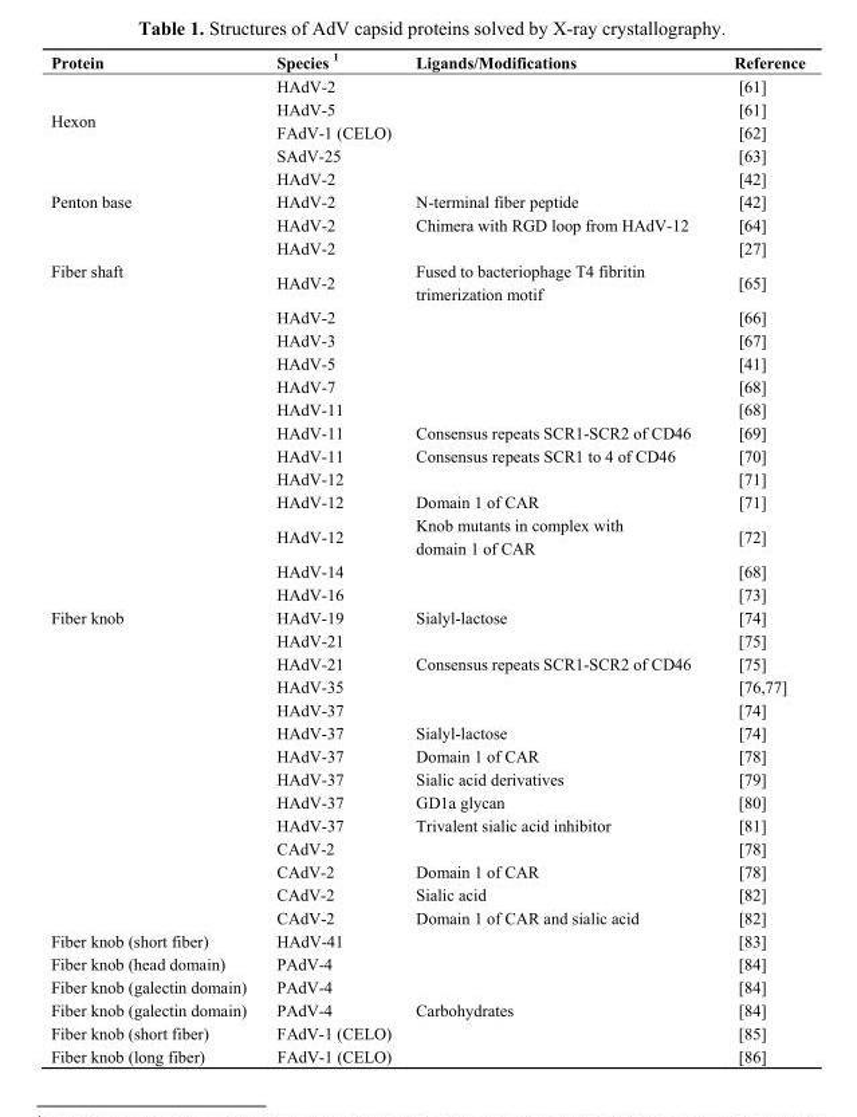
<table><thead><tr><td>Protein</td><td>Species 1</td><td>Ligands/Modifications</td><td>Reference</td></tr></thead><tbody><tr><td rowspan="4">Hexon</td><td>HAdV-2</td><td></td><td>[61]</td></tr><tr><td>HAdV-5</td><td></td><td>[61]</td></tr><tr><td>FAdV-1 (CELO)</td><td></td><td>[62]</td></tr><tr><td>SAdV-25</td><td></td><td>[63]</td></tr><tr><td rowspan="3">Penton base</td><td>HAdV-2</td><td></td><td>[42]</td></tr><tr><td>HAdV-2</td><td>N-terminal fiber peptide</td><td>[42]</td></tr><tr><td>HAdV-2</td><td>Chimera with RGD loop from HAdV-12</td><td>[64]</td></tr><tr><td rowspan="2">Fiber shaft</td><td>HAdV-2</td><td></td><td>[27]</td></tr><tr><td>HAdV-2</td><td>Fused to bacteriophage T4 fibritin trimerization motif</td><td>[65]</td></tr><tr><td rowspan="26">Fiber knob</td><td>HAdV-2</td><td></td><td>[66]</td></tr><tr><td>HAdV-3</td><td></td><td>[67]</td></tr><tr><td>HAdV-5</td><td></td><td>[41]</td></tr><tr><td>HAdV-7</td><td></td><td>[68]</td></tr><tr><td>HAdV-11</td><td></td><td>[68]</td></tr><tr><td>HAdV-11</td><td>Consensus repeats SCR1-SCR2 of CD46</td><td>[69]</td></tr><tr><td>HAdV-11</td><td>Consensus repeats SCR1 to 4 of CD46</td><td>[70]</td></tr><tr><td>HAdV-12</td><td></td><td>[71]</td></tr><tr><td>HAdV-12</td><td>Domain 1 of CAR</td><td>[71]</td></tr><tr><td>HAdV-12</td><td>Knob mutants in complex with domain 1 of CAR</td><td>[72]</td></tr><tr><td>HAdV-14</td><td></td><td>[68]</td></tr><tr><td>HAdV-16</td><td></td><td>[73]</td></tr><tr><td>HAdV-19</td><td>Sialyl-lactose</td><td>[74]</td></tr><tr><td>HAdV-21</td><td></td><td>[75]</td></tr><tr><td>HAdV-21</td><td>Consensus repeats SCR1-SCR2 of CD46</td><td>[75]</td></tr><tr><td>HAdV-35</td><td></td><td>[76,77]</td></tr><tr><td>HAdV-37</td><td></td><td>[74]</td></tr><tr><td>HAdV-37</td><td>Sialyl-lactose</td><td>[74]</td></tr><tr><td>HAdV-37</td><td>Domain 1 of CAR</td><td>[78]</td></tr><tr><td>HAdV-37</td><td>Sialic acid derivatives</td><td>[79]</td></tr><tr><td>HAdV-37</td><td>GD1a glycan</td><td>[80]</td></tr><tr><td>HAdV-37</td><td>Trivalent sialic acid inhibitor</td><td>[81]</td></tr><tr><td>CAdV-2</td><td></td><td>[78]</td></tr><tr><td>CAdV-2</td><td>Domain 1 of CAR</td><td>[78]</td></tr><tr><td>CAdV-2</td><td>Sialic acid</td><td>[82]</td></tr><tr><td>CAdV-2</td><td>Domain 1 of CAR and sialic acid</td><td>[82]</td></tr><tr><td>Fiber knob (short fiber)</td><td>HAdV-41</td><td></td><td>[83]</td></tr><tr><td>Fiber knob (head domain)</td><td>PAdV-4</td><td></td><td>[84]</td></tr><tr><td>Fiber knob (galectin domain)</td><td>PAdV-4</td><td></td><td>[84]</td></tr><tr><td>Fiber knob (galectin domain)</td><td>PAdV-4</td><td>Carbohydrates</td><td>[84]</td></tr><tr><td>Fiber knob (short fiber)</td><td>FAdV-1 (CELO)</td><td></td><td>[85]</td></tr><tr><td>Fiber knob (long fiber)</td><td>FAdV-1 (CELO)</td><td></td><td>[86]</td></tr></tbody></table>